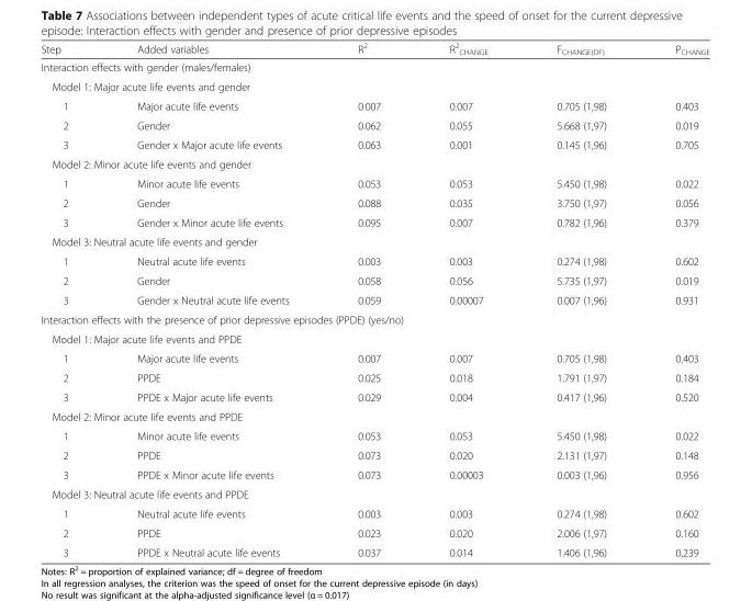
<table><thead><tr><td>Step</td><td>Added variables</td><td>R<sup>2</sup></td><td>R<sup>2</sup> <sub>CHANGE</sub></td><td>F<sub>CHANGE(DF)</sub></td><td>P<sub>CHANGE</sub></td></tr></thead><tbody><tr><td colspan="6">Interaction effects with gender (males/females)</td></tr><tr><td colspan="6">Model 1: Major acute life events and gender</td></tr><tr><td>1</td><td>Major acute life events</td><td>0.007</td><td>0.007</td><td>0.705 (1,98)</td><td>0.403</td></tr><tr><td>2</td><td>Gender</td><td>0.062</td><td>0.055</td><td>5.668 (1,97)</td><td>0.019</td></tr><tr><td>3</td><td>Gender x Major acute life events</td><td>0.063</td><td>0.001</td><td>0.145 (1,96)</td><td>0.705</td></tr><tr><td colspan="6">Model 2: Minor acute life events and gender</td></tr><tr><td>1</td><td>Minor acute life events</td><td>0.053</td><td>0.053</td><td>5.450 (1,98)</td><td>0.022</td></tr><tr><td>2</td><td>Gender</td><td>0.088</td><td>0.035</td><td>3.750 (1,97)</td><td>0.056</td></tr><tr><td>3</td><td>Gender x Minor acute life events</td><td>0.095</td><td>0.007</td><td>0.782 (1,96)</td><td>0.379</td></tr><tr><td colspan="6">Model 3: Neutral acute life events and gender</td></tr><tr><td>1</td><td>Neutral acute life events</td><td>0.003</td><td>0.003</td><td>0.274 (1,98)</td><td>0.602</td></tr><tr><td>2</td><td>Gender</td><td>0.058</td><td>0.056</td><td>5.735 (1,97)</td><td>0.019</td></tr><tr><td>3</td><td>Gender x Neutral acute life events</td><td>0.059</td><td>0.00007</td><td>0.007 (1,96)</td><td>0.931</td></tr><tr><td colspan="6">Interaction effects with the presence of prior depressive episodes (PPDE) (yes/no)</td></tr><tr><td colspan="6">Model 1: Major acute life events and PPDE</td></tr><tr><td>1</td><td>Major acute life events</td><td>0.007</td><td>0.007</td><td>0.705 (1,98)</td><td>0.403</td></tr><tr><td>2</td><td>PPDE</td><td>0.025</td><td>0.018</td><td>1.791 (1,97)</td><td>0.184</td></tr><tr><td>3</td><td>PPDE x Major acute life events</td><td>0.029</td><td>0.004</td><td>0.417 (1,96)</td><td>0.520</td></tr><tr><td colspan="6">Model 2: Minor acute life events and PPDE</td></tr><tr><td>1</td><td>Minor acute life events</td><td>0.053</td><td>0.053</td><td>5.450 (1,98)</td><td>0.022</td></tr><tr><td>2</td><td>PPDE</td><td>0.073</td><td>0.020</td><td>2.131 (1,97)</td><td>0.148</td></tr><tr><td>3</td><td>PPDE x Minor acute life events</td><td>0.073</td><td>0.00003</td><td>0.003 (1,96)</td><td>0.956</td></tr><tr><td colspan="6">Model 3: Neutral acute life events and PPDE</td></tr><tr><td>1</td><td>Neutral acute life events</td><td>0.003</td><td>0.003</td><td>0.274 (1,98)</td><td>0.602</td></tr><tr><td>2</td><td>PPDE</td><td>0.023</td><td>0.020</td><td>2.006 (1,97)</td><td>0.160</td></tr><tr><td>3</td><td>PPDE x Neutral acute life events</td><td>0.037</td><td>0.014</td><td>1.406 (1,96)</td><td>0,239</td></tr></tbody></table>